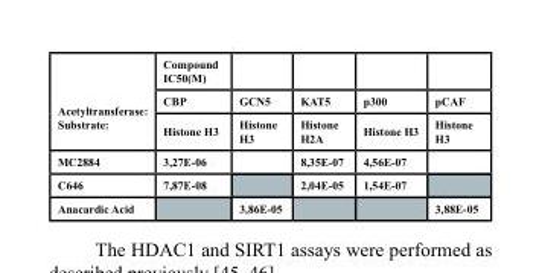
<table><thead><tr><td rowspan="3">Acetyltransferase: Substrate:</td><td rowspan="3">Compound IC50(M) CBP Histone H3</td><td rowspan="3">GCN5 Histone H3</td><td rowspan="3">KAT5 Histone H2A</td><td rowspan="3">p300 Histone H3</td><td rowspan="3">pCAF Histone H3</td></tr><tr></tr><tr></tr></thead><tbody><tr><td>MC2884</td><td>3,27E-06</td><td></td><td>8,35E-07</td><td>4,56E-07</td><td></td></tr><tr><td>C646</td><td>7,87E-08</td><td></td><td>2,04E-05</td><td>1,54E-07</td><td></td></tr><tr><td>Anacardic Acid</td><td></td><td>3,86E-05</td><td></td><td></td><td>3,88E-05</td></tr></tbody></table>